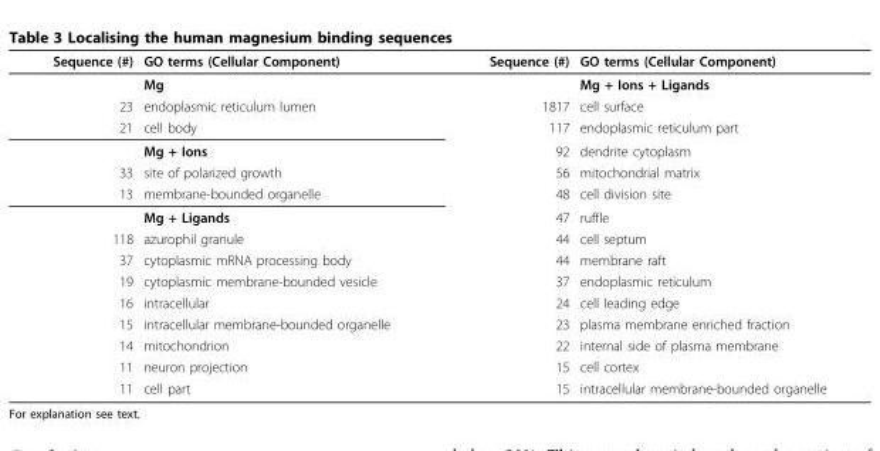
<table><thead><tr><td>Sequence (#)</td><td>GO terms (Cellular Component)</td><td>Sequence (#)</td><td>GO terms (Cellular Component)</td></tr></thead><tbody><tr><td></td><td>Mg</td><td></td><td>Mg + Ions + Ligands</td></tr><tr><td>23</td><td>endoplasmic reticulum lumen</td><td>1817</td><td>cell surface</td></tr><tr><td rowspan="2">21</td><td>cell body</td><td>117</td><td>endoplasmic reticulum part</td></tr><tr><td>Mg + Ions</td><td>92</td><td>dendrite cytoplasm</td></tr><tr><td>33</td><td>site of polarized growth</td><td>56</td><td>mitochondrial matrix</td></tr><tr><td rowspan="2">13</td><td>membrane-bounded organelle</td><td>48</td><td>cell division site</td></tr><tr><td>Mg + Ligands</td><td>47</td><td>ruffle</td></tr><tr><td>118</td><td>azurophil granule</td><td>44</td><td>cell septum</td></tr><tr><td>37</td><td>cytoplasmic mRNA processing body</td><td>44</td><td>membrane raft</td></tr><tr><td>19</td><td>cytoplasmic membrane-bounded vesicle</td><td>37</td><td>endoplasmic reticulum</td></tr><tr><td>16</td><td>intracellular</td><td>24</td><td>cell leading edge</td></tr><tr><td>15</td><td>intracellular membrane-bounded organelle</td><td>23</td><td>plasma membrane enriched fraction</td></tr><tr><td>14</td><td>mitochondrion</td><td>22</td><td>internal side of plasma membrane</td></tr><tr><td>11</td><td>neuron projection</td><td>15</td><td>cell cortex</td></tr><tr><td>11</td><td>cell part</td><td>15</td><td>intracellular membrane-bounded organelle</td></tr></tbody></table>